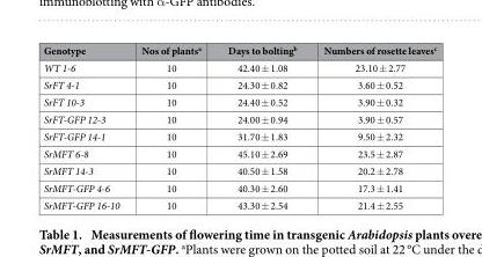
<table><thead><tr><td>Genotype</td><td>Nos of plants<sup>a</sup></td><td>Days to bolting<sup>b</sup></td><td>Numbers of rosette leaves<sup>c</sup></td></tr></thead><tbody><tr><td>WT 1-6</td><td>10</td><td>42.40 ± 1.08</td><td>23.10 ± 2.77</td></tr><tr><td>SrFT 4-1</td><td>10</td><td>24.30 ± 0.82</td><td>3.60 ± 0.52</td></tr><tr><td>SrFT 10-3</td><td>10</td><td>24.40 ± 0.52</td><td>3.90 ± 0.32</td></tr><tr><td>SrFT-GFP 12-3</td><td>10</td><td>24.00 ± 0.94</td><td>3.90 ± 0.57</td></tr><tr><td>SrFT-GFP 14-1</td><td>10</td><td>31.70 ± 1.83</td><td>9.50 ± 2.32</td></tr><tr><td>SrMFT 6-8</td><td>10</td><td>45.10 ± 2.69</td><td>23.5 ± 2.87</td></tr><tr><td>SrMFT 14-3</td><td>10</td><td>40.50 ± 1.58</td><td>20.2 ± 2.78</td></tr><tr><td>SrMFT-GFP 4-6</td><td>10</td><td>40.30 ± 2.60</td><td>17.3 ± 1.41</td></tr><tr><td>SrMFT-GFP 16-10</td><td>10</td><td>43.30 ± 2.54</td><td>21.4 ± 2.55</td></tr></tbody></table>